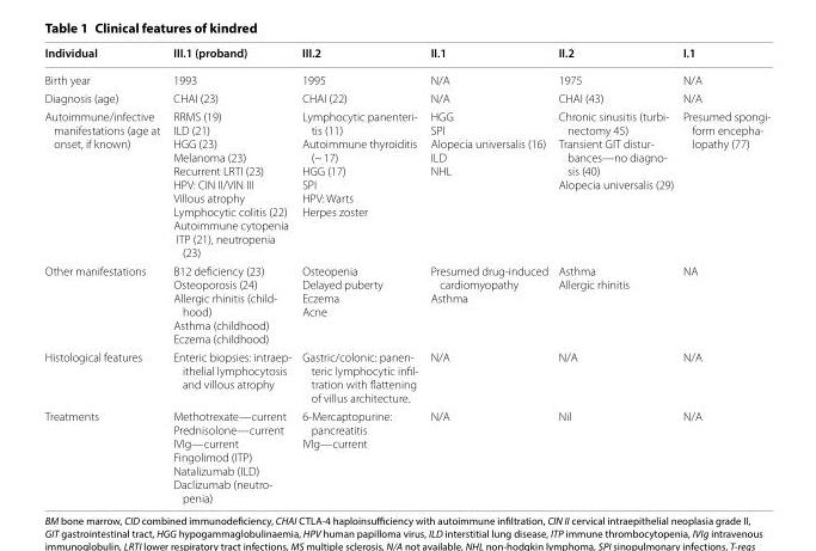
<table><thead><tr><td>Individual</td><td>III.1 (proband)</td><td>III.2</td><td>II.1</td><td>II.2</td><td>I.1</td></tr></thead><tbody><tr><td>Birth year</td><td>1993</td><td>1995</td><td>N/A</td><td>1975</td><td>N/A</td></tr><tr><td>Diagnosis (age)</td><td>CHAI (23)</td><td>CHAI (22)</td><td>N/A</td><td>CHAI (43)</td><td>N/A</td></tr><tr><td>Autoimmune/infective manifestations (age at onset, if known)</td><td>RRMS (19) ILD (21) HGG (23) Melanoma (23) Recurrent LRTI (23) HPV: CIN II/VIN III Villous atrophy Lymphocytic colitis (22) Autoimmune cytopenia ITP (21), neutropenia (23)</td><td>Lymphocytic panenteri- tis (11) Autoimmune thyroiditis (~ 17) HGG (17) SPI HPV: Warts Herpes zoster</td><td>HGG SPI Alopecia universalis (16) ILD NHL</td><td>Chronic sinusitis (turbi- nectomy 45) Transient GIT distur- bances—no diagno- sis (40) Alopecia universalis (29)</td><td>Presumed spongi- form encepha- lopathy (77)</td></tr><tr><td>Other manifestations</td><td>B12 deficiency (23) Osteoporosis (24) Allergic rhinitis (child- hood) Asthma (childhood) Eczema (childhood)</td><td>Osteopenia Delayed puberty Eczema Acne</td><td>Presumed drug-induced cardiomyopathy Asthma</td><td>Asthma Allergic rhinitis</td><td>NA</td></tr><tr><td>Histological features</td><td>Enteric biopsies: intraep- ithelial lymphocytosis and villous atrophy</td><td>Gastric/colonic: panen- teric lymphocytic infil- tration with flattening of villus architecture.</td><td>N/A</td><td>N/A</td><td>N/A</td></tr><tr><td>Treatments</td><td>Methotrexate—current Prednisolone—current IVIg—current Fingolimod (ITP) Natalizumab (ILD) Daclizumab (neutro- penia)</td><td>6-Mercaptopurine: pancreatitis IVIg—current</td><td>N/A</td><td>Nil</td><td>N/A</td></tr></tbody></table>